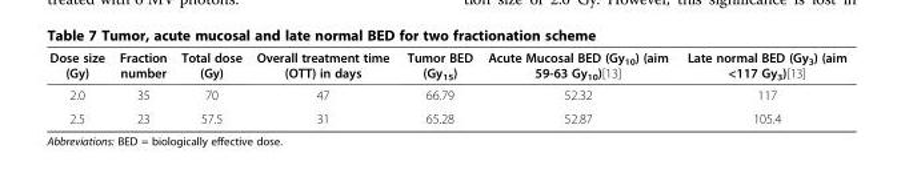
<table><thead><tr><td>Dose size (Gy)</td><td>Fraction number</td><td>Total dose (Gy)</td><td>Overall treatment time (OTT) in days</td><td>Tumor BED (Gy<sub>15</sub>)</td><td>Acute Mucosal BED (Gy<sub>10</sub>) (aim 59-63 Gy<sub>10</sub>)[13]</td><td>Late normal BED (Gy<sub>3</sub>) (aim &lt;117 Gy<sub>3</sub>)[13]</td></tr></thead><tbody><tr><td>2.0</td><td>35</td><td>70</td><td>47</td><td>66.79</td><td>52.32</td><td>117</td></tr><tr><td>2.5</td><td>23</td><td>57.5</td><td>31</td><td>65.28</td><td>52.87</td><td>105.4</td></tr></tbody></table>